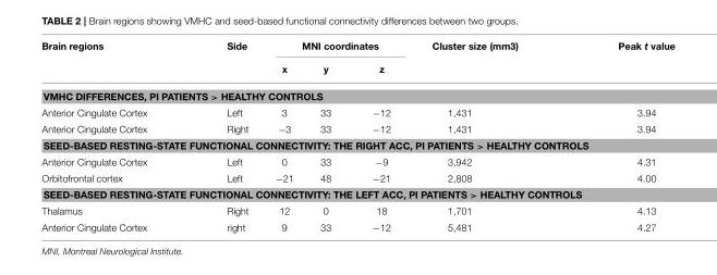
<table><thead><tr><td rowspan="2">Brain regions</td><td rowspan="2">Side</td><td colspan="3">MNI coordinates</td><td rowspan="2">Cluster size (mm3)</td><td rowspan="2">Peak t value</td></tr><tr><td>x</td><td>y</td><td>z</td></tr></thead><tbody><tr><td colspan="7">VMHC DIFFERENCES, PI PATIENTS &gt; HEALTHY CONTROLS</td></tr><tr><td>Anterior Cingulate Cortex</td><td>Left</td><td>3</td><td>33</td><td>−12</td><td>1,431</td><td>3.94</td></tr><tr><td>Anterior Cingulate Cortex</td><td>Right</td><td>−3</td><td>33</td><td>−12</td><td>1,431</td><td>3.94</td></tr><tr><td colspan="7">SEED-BASED RESTING-STATE FUNCTIONAL CONNECTIVITY: THE RIGHT ACC, PI PATIENTS &gt; HEALTHY CONTROLS</td></tr><tr><td>Anterior Cingulate Cortex</td><td>Left</td><td>0</td><td>33</td><td>−9</td><td>3,942</td><td>4.31</td></tr><tr><td>Orbitofrontal cortex</td><td>Left</td><td>−21</td><td>48</td><td>−21</td><td>2,808</td><td>4.00</td></tr><tr><td colspan="7">SEED-BASED RESTING-STATE FUNCTIONAL CONNECTIVITY: THE LEFT ACC, PI PATIENTS &gt; HEALTHY CONTROLS</td></tr><tr><td>Thalamus</td><td>Right</td><td>12</td><td>0</td><td>18</td><td>1,701</td><td>4.13</td></tr><tr><td>Anterior Cingulate Cortex</td><td>right</td><td>9</td><td>33</td><td>−12</td><td>5,481</td><td>4.27</td></tr></tbody></table>